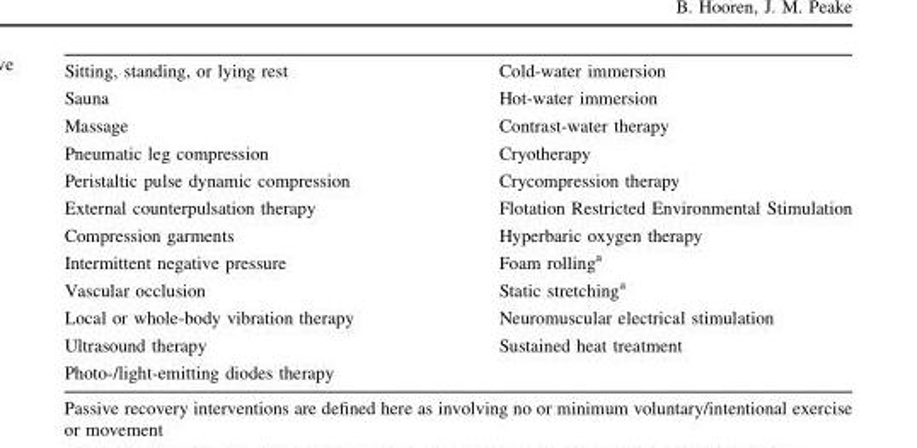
<table><tbody><tr><td>Sitting, standing, or lying rest</td><td>Cold-water immersion</td></tr><tr><td>Sauna</td><td>Hot-water immersion</td></tr><tr><td>Massage</td><td>Contrast-water therapy</td></tr><tr><td>Pneumatic leg compression</td><td>Cryotherapy</td></tr><tr><td>Peristaltic pulse dynamic compression</td><td>Crycompression therapy</td></tr><tr><td>External counterpulsation therapy</td><td>Flotation Restricted Environmental Stimulation</td></tr><tr><td>Compression garments</td><td>Hyperbaric oxygen therapy</td></tr><tr><td>Intermittent negative pressure</td><td>Foam rolling<sup>a</sup></td></tr><tr><td>Vascular occlusion</td><td>Static stretching<sup>a</sup></td></tr><tr><td>Local or whole-body vibration therapy</td><td>Neuromuscular electrical stimulation</td></tr><tr><td>Ultrasound therapy</td><td>Sustained heat treatment</td></tr><tr><td>Photo-/light-emitting diodes therapy</td><td></td></tr></tbody></table>